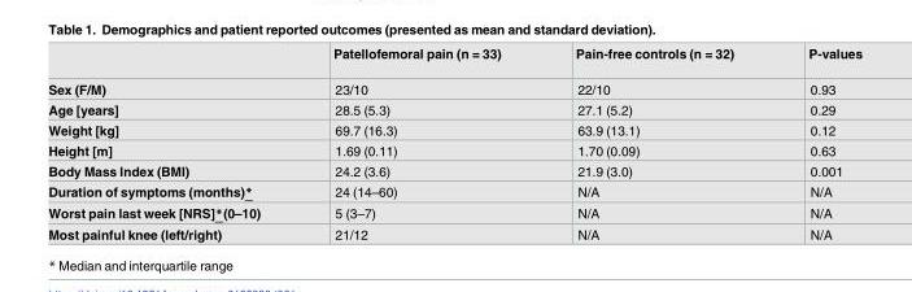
<table><thead><tr><td></td><td>Patellofemoral pain (n = 33)</td><td>Pain-free controls (n = 32)</td><td>P-values</td></tr></thead><tbody><tr><td>Sex (F/M)</td><td>23/10</td><td>22/10</td><td>0.93</td></tr><tr><td>Age [years]</td><td>28.5 (5.3)</td><td>27.1 (5.2)</td><td>0.29</td></tr><tr><td>Weight [kg]</td><td>69.7 (16.3)</td><td>63.9 (13.1)</td><td>0.12</td></tr><tr><td>Height [m]</td><td>1.69 (0.11)</td><td>1.70 (0.09)</td><td>0.63</td></tr><tr><td>Body Mass Index (BMI)</td><td>24.2 (3.6)</td><td>21.9 (3.0)</td><td>0.001</td></tr><tr><td>Duration of symptoms (months)*</td><td>24 (14–60)</td><td>N/A</td><td>N/A</td></tr><tr><td>Worst pain last week [NRS]*(0–10)</td><td>5 (3–7)</td><td>N/A</td><td>N/A</td></tr><tr><td>Most painful knee (left/right)</td><td>21/12</td><td>N/A</td><td>N/A</td></tr></tbody></table>